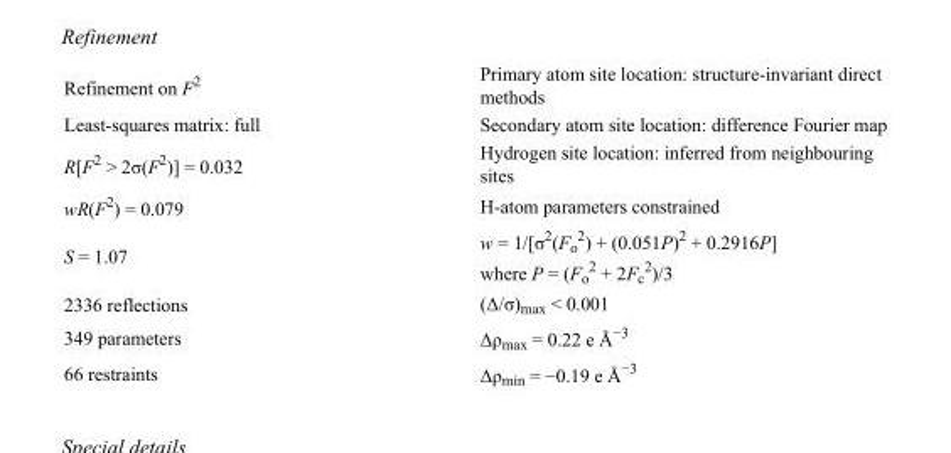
<table><tbody><tr><td>Refinement on F<sup>2</sup></td><td>Primary atom site location: structure-invariant direct methods</td></tr><tr><td>Least-squares matrix: full</td><td>Secondary atom site location: difference Fourier map</td></tr><tr><td>R[F<sup>2</sup> &gt; 2σ(F<sup>2</sup>)] = 0.032</td><td>Hydrogen site location: inferred from neighbouring sites</td></tr><tr><td>wR(F<sup>2</sup>) = 0.079</td><td>H-atom parameters constrained</td></tr><tr><td>S = 1.07</td><td>w = 1/[σ<sup>2</sup>(F<sub>o</sub> <sup>2</sup>) + (0.051P)<sup>2</sup> + 0.2916P] where P = (F<sub>o</sub> <sup>2</sup> + 2F<sub>c</sub> <sup>2</sup>)/3</td></tr><tr><td>2336 reflections</td><td>(Δ/σ)<sub>max</sub> &lt; 0.001</td></tr><tr><td>349 parameters</td><td>Δρ<sub>max</sub> = 0.22 e Å<sup>−3</sup></td></tr><tr><td>66 restraints</td><td>Δρ<sub>min</sub> = −0.19 e Å<sup>−3</sup></td></tr></tbody></table>